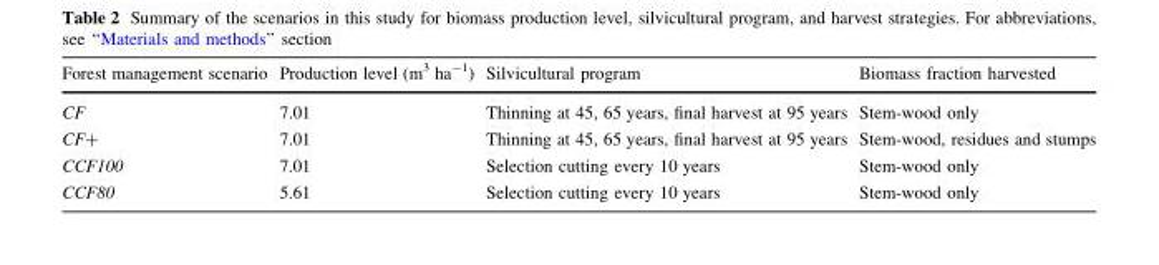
<table><thead><tr><td>Forest management scenario</td><td>Production level (m<sup>3</sup> ha<sup>-1</sup>)</td><td>Silvicultural program</td><td>Biomass fraction harvested</td></tr></thead><tbody><tr><td>CF</td><td>7.01</td><td>Thinning at 45, 65 years, final harvest at 95 years</td><td>Stem-wood only</td></tr><tr><td>CF+</td><td>7.01</td><td>Thinning at 45, 65 years, final harvest at 95 years</td><td>Stem-wood, residues and stumps</td></tr><tr><td>CCF100</td><td>7.01</td><td>Selection cutting every 10 years</td><td>Stem-wood only</td></tr><tr><td>CCF80</td><td>5.61</td><td>Selection cutting every 10 years</td><td>Stem-wood only</td></tr></tbody></table>